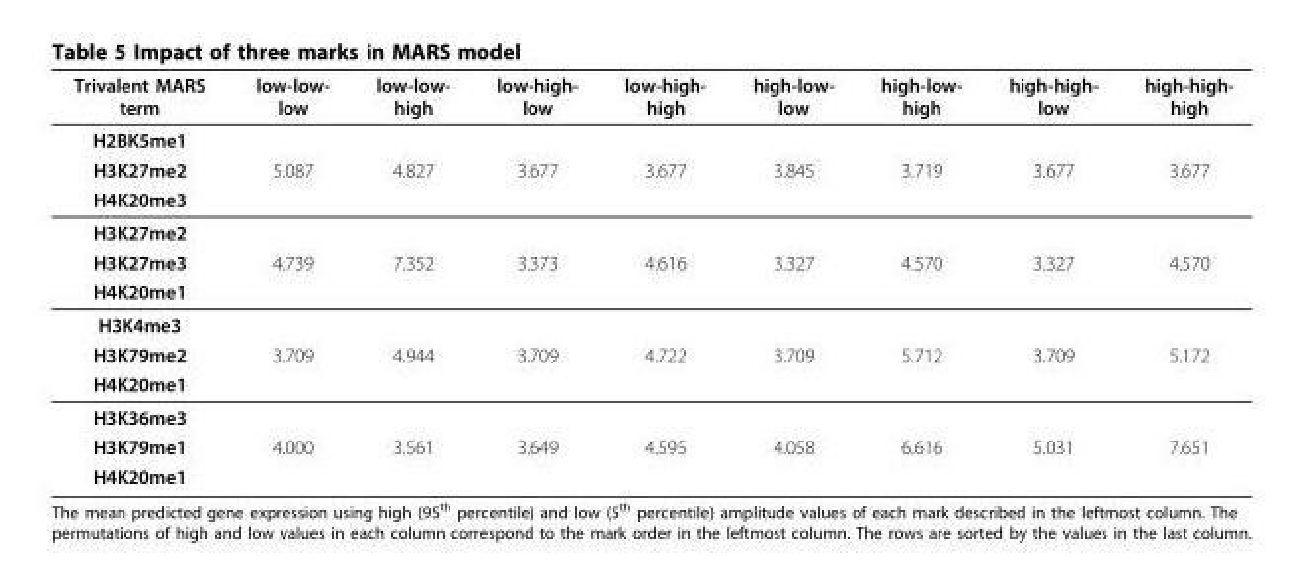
<table><thead><tr><td>Trivalent MARS term</td><td>low-low- low</td><td>low-low- high</td><td>low-high- low</td><td>low-high- high</td><td>high-low- low</td><td>high-low- high</td><td>high-high- low</td><td>high-high- high</td></tr></thead><tbody><tr><td colspan="9">H2BK5me1</td></tr><tr><td>H3K27me2</td><td>5.087</td><td>4.827</td><td>3.677</td><td>3.677</td><td>3.845</td><td>3.719</td><td>3.677</td><td>3.677</td></tr><tr><td colspan="9">H4K20me3</td></tr><tr><td colspan="9">H3K27me2</td></tr><tr><td>H3K27me3</td><td>4.739</td><td>7.352</td><td>3.373</td><td>4.616</td><td>3.327</td><td>4.570</td><td>3.327</td><td>4.570</td></tr><tr><td colspan="9">H4K20me1</td></tr><tr><td colspan="9">H3K4me3</td></tr><tr><td>H3K79me2</td><td>3.709</td><td>4.944</td><td>3.709</td><td>4.722</td><td>3.709</td><td>5.712</td><td>3.709</td><td>5.172</td></tr><tr><td colspan="9">H4K20me1</td></tr><tr><td colspan="9">H3K36me3</td></tr><tr><td>H3K79me1</td><td>4.000</td><td>3.561</td><td>3.649</td><td>4.595</td><td>4.058</td><td>6.616</td><td>5.031</td><td>7.651</td></tr><tr><td>H4K20me1</td><td></td><td></td><td></td><td></td><td></td><td></td><td></td><td></td></tr></tbody></table>